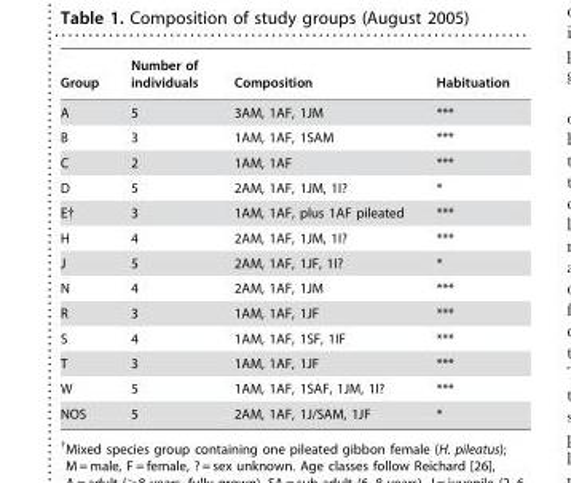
<table><thead><tr><td>Group</td><td>Number of individuals</td><td>Composition</td><td>Habituation</td></tr></thead><tbody><tr><td>A</td><td>5</td><td>3AM, 1AF, 1JM</td><td>***</td></tr><tr><td>B</td><td>3</td><td>1AM, 1AF, 1SAM</td><td>***</td></tr><tr><td>C</td><td>2</td><td>1AM, 1AF</td><td>***</td></tr><tr><td>D</td><td>5</td><td>2AM, 1AF, 1JM, 1I?</td><td>*</td></tr><tr><td>E†</td><td>3</td><td>1AM, 1AF, plus 1AF pileated</td><td>***</td></tr><tr><td>H</td><td>4</td><td>2AM, 1AF, 1JM, 1I?</td><td>***</td></tr><tr><td>J</td><td>5</td><td>2AM, 1AF, 1JF, 1I?</td><td>*</td></tr><tr><td>N</td><td>4</td><td>2AM, 1AF, 1JM</td><td>***</td></tr><tr><td>R</td><td>3</td><td>1AM, 1AF, 1JF</td><td>***</td></tr><tr><td>S</td><td>4</td><td>1AM, 1AF, 1SF, 1IF</td><td>***</td></tr><tr><td>T</td><td>3</td><td>1AM, 1AF, 1JF</td><td>***</td></tr><tr><td>W</td><td>5</td><td>1AM, 1AF, 1SAF, 1JM, 1I?</td><td>***</td></tr><tr><td>NOS</td><td>5</td><td>2AM, 1AF, 1J/SAM, 1JF</td><td>*</td></tr></tbody></table>